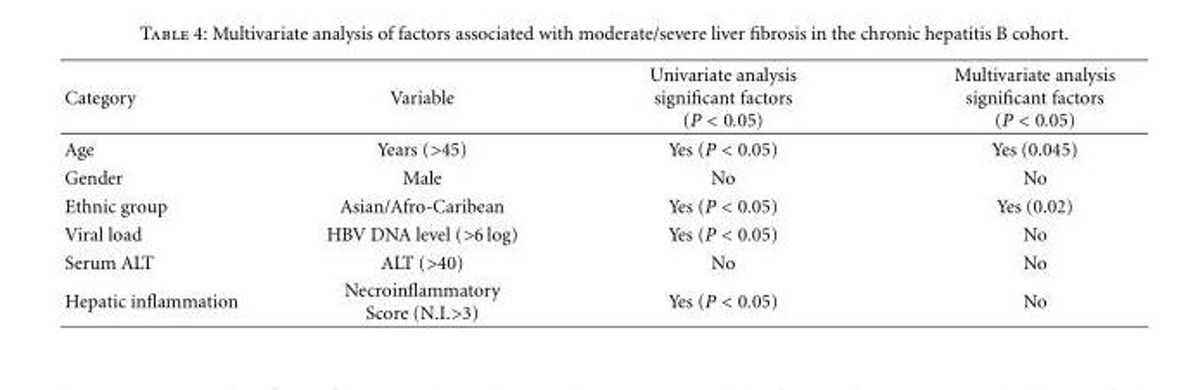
<table><thead><tr><td>Category</td><td>Variable</td><td>Univariate analysis significant factors (P &lt; 0.05)</td><td>Multivariate analysis significant factors (P &lt; 0.05)</td></tr></thead><tbody><tr><td>Age</td><td>Years (&gt;45)</td><td>Yes (P &lt; 0.05)</td><td>Yes (0.045)</td></tr><tr><td>Gender</td><td>Male</td><td>No</td><td>No</td></tr><tr><td>Ethnic group</td><td>Asian/Afro-Caribean</td><td>Yes (P &lt; 0.05)</td><td>Yes (0.02)</td></tr><tr><td>Viral load</td><td>HBV DNA level (&gt;6 log)</td><td>Yes (P &lt; 0.05)</td><td>No</td></tr><tr><td>Serum ALT</td><td>ALT (&gt;40)</td><td>No</td><td>No</td></tr><tr><td>Hepatic inflammation</td><td>Necroinflammatory Score (N.I.&gt;3)</td><td>Yes (P &lt; 0.05)</td><td>No</td></tr></tbody></table>